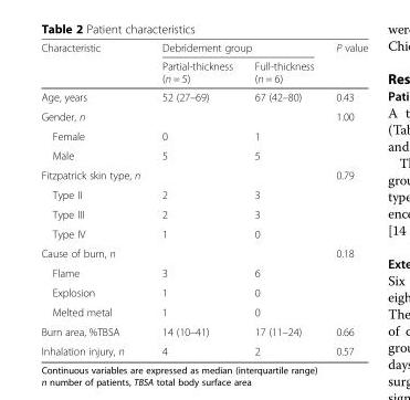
<table><thead><tr><td rowspan="2">Characteristic</td><td colspan="2">Debridement group</td><td rowspan="2">P value</td></tr><tr><td>Partial-thickness (n = 5)</td><td>Full-thickness (n = 6)</td></tr></thead><tbody><tr><td>Age, years</td><td>52 (27–69)</td><td>67 (42–80)</td><td>0.43</td></tr><tr><td>Gender, n</td><td></td><td></td><td>1.00</td></tr><tr><td>Female</td><td>0</td><td>1</td><td></td></tr><tr><td>Male</td><td>5</td><td>5</td><td></td></tr><tr><td>Fitzpatrick skin type, n</td><td></td><td></td><td>0.79</td></tr><tr><td>Type II</td><td>2</td><td>3</td><td></td></tr><tr><td>Type III</td><td>2</td><td>3</td><td></td></tr><tr><td>Type IV</td><td>1</td><td>0</td><td></td></tr><tr><td>Cause of burn, n</td><td></td><td></td><td>0.18</td></tr><tr><td>Flame</td><td>3</td><td>6</td><td></td></tr><tr><td>Explosion</td><td>1</td><td>0</td><td></td></tr><tr><td>Melted metal</td><td>1</td><td>0</td><td></td></tr><tr><td>Burn area, %TBSA</td><td>14 (10–41)</td><td>17 (11–24)</td><td>0.66</td></tr><tr><td>Inhalation injury, n</td><td>4</td><td>2</td><td>0.57</td></tr></tbody></table>